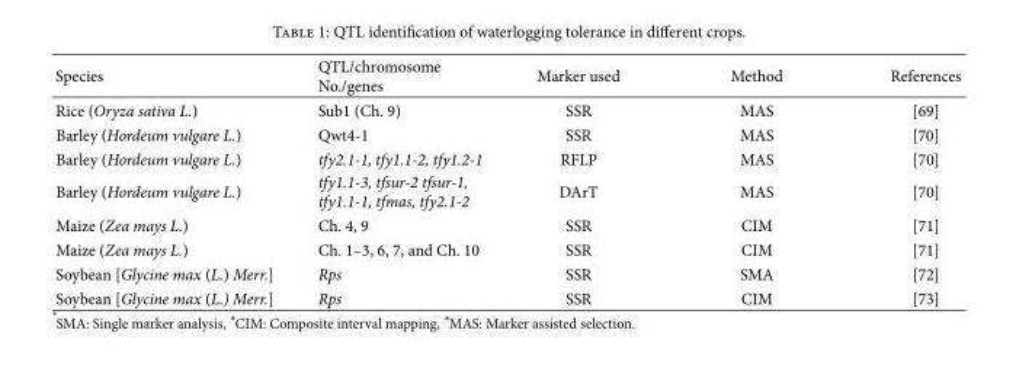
<table><thead><tr><td>Species</td><td>QTL/chromosome No./genes</td><td>Marker used</td><td>Method</td><td>References</td></tr></thead><tbody><tr><td>Rice (Oryza sativa L.)</td><td>Sub1 (Ch. 9)</td><td>SSR</td><td>MAS</td><td>[69]</td></tr><tr><td>Barley (Hordeum vulgare L.)</td><td>Qwt4-1</td><td>SSR</td><td>MAS</td><td>[70]</td></tr><tr><td>Barley (Hordeum vulgare L.)</td><td>tfy2.1-1, tfy1.1-2, tfy1.2-1</td><td>RFLP</td><td>MAS</td><td>[70]</td></tr><tr><td>Barley (Hordeum vulgare L.)</td><td>tfy1.1-3, tfsur-2 tfsur-1, tfy1.1-1, tfmas, tfy2.1-2</td><td>DArT</td><td>MAS</td><td>[70]</td></tr><tr><td>Maize (Zea mays L.)</td><td>Ch. 4, 9</td><td>SSR</td><td>CIM</td><td>[71]</td></tr><tr><td>Maize (Zea mays L.)</td><td>Ch. 1–3, 6, 7, and Ch. 10</td><td>SSR</td><td>CIM</td><td>[71]</td></tr><tr><td>Soybean [Glycine max (L.) Merr.]</td><td>Rps</td><td>SSR</td><td>SMA</td><td>[72]</td></tr><tr><td>Soybean [Glycine max (L.) Merr.]</td><td>Rps</td><td>SSR</td><td>CIM</td><td>[73]</td></tr></tbody></table>